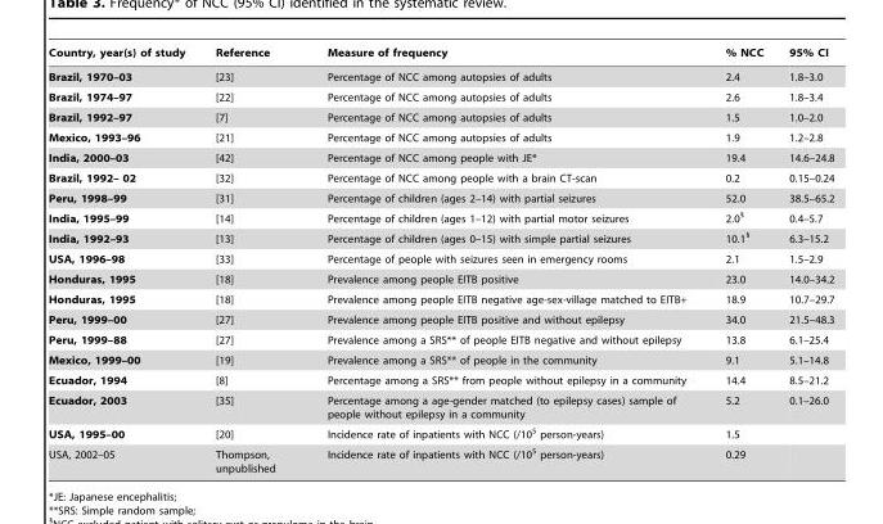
<table><thead><tr><td>Country, year(s) of study</td><td>Reference</td><td>Measure of frequency</td><td>% NCC</td><td>95% CI</td></tr></thead><tbody><tr><td>Brazil, 1970–03</td><td>[23]</td><td>Percentage of NCC among autopsies of adults</td><td>2.4</td><td>1.8–3.0</td></tr><tr><td>Brazil, 1974–97</td><td>[22]</td><td>Percentage of NCC among autopsies of adults</td><td>2.6</td><td>1.8–3.4</td></tr><tr><td>Brazil, 1992–97</td><td>[7]</td><td>Percentage of NCC among autopsies of adults</td><td>1.5</td><td>1.0–2.0</td></tr><tr><td>Mexico, 1993–96</td><td>[21]</td><td>Percentage of NCC among autopsies of adults</td><td>1.9</td><td>1.2–2.8</td></tr><tr><td>India, 2000–03</td><td>[42]</td><td>Percentage of NCC among people with JE*</td><td>19.4</td><td>14.6–24.8</td></tr><tr><td>Brazil, 1992– 02</td><td>[32]</td><td>Percentage of NCC among people with a brain CT-scan</td><td>0.2</td><td>0.15–0.24</td></tr><tr><td>Peru, 1998–99</td><td>[31]</td><td>Percentage of children (ages 2–14) with partial seizures</td><td>52.0</td><td>38.5–65.2</td></tr><tr><td>India, 1995–99</td><td>[14]</td><td>Percentage of children (ages 1–12) with partial motor seizures</td><td>2.0§</td><td>0.4–5.7</td></tr><tr><td>India, 1992–93</td><td>[13]</td><td>Percentage of children (ages 0–15) with simple partial seizures</td><td>10.1§</td><td>6.3–15.2</td></tr><tr><td>USA, 1996–98</td><td>[33]</td><td>Percentage of people with seizures seen in emergency rooms</td><td>2.1</td><td>1.5–2.9</td></tr><tr><td>Honduras, 1995</td><td>[18]</td><td>Prevalence among people EITB positive</td><td>23.0</td><td>14.0–34.2</td></tr><tr><td>Honduras, 1995</td><td>[18]</td><td>Prevalence among people EITB negative age-sex-village matched to EITB+</td><td>18.9</td><td>10.7–29.7</td></tr><tr><td>Peru, 1999–00</td><td>[27]</td><td>Prevalence among people EITB positive and without epilepsy</td><td>34.0</td><td>21.5–48.3</td></tr><tr><td>Peru, 1999–88</td><td>[27]</td><td>Prevalence among a SRS** of people EITB negative and without epilepsy</td><td>13.8</td><td>6.1–25.4</td></tr><tr><td>Mexico, 1999–00</td><td>[19]</td><td>Prevalence among a SRS** of people in the community</td><td>9.1</td><td>5.1–14.8</td></tr><tr><td>Ecuador, 1994</td><td>[8]</td><td>Percentage among a SRS** from people without epilepsy in a community</td><td>14.4</td><td>8.5–21.2</td></tr><tr><td>Ecuador, 2003</td><td>[35]</td><td>Percentage among a age-gender matched (to epilepsy cases) sample of people without epilepsy in a community</td><td>5.2</td><td>0.1–26.0</td></tr><tr><td>USA, 1995–00</td><td>[20]</td><td>Incidence rate of inpatients with NCC (/10<sup>5</sup> person-years)</td><td>1.5</td><td></td></tr><tr><td>USA, 2002–05</td><td>Thompson, unpublished</td><td>Incidence rate of inpatients with NCC (/10<sup>5</sup> person-years)</td><td>0.29</td><td></td></tr></tbody></table>